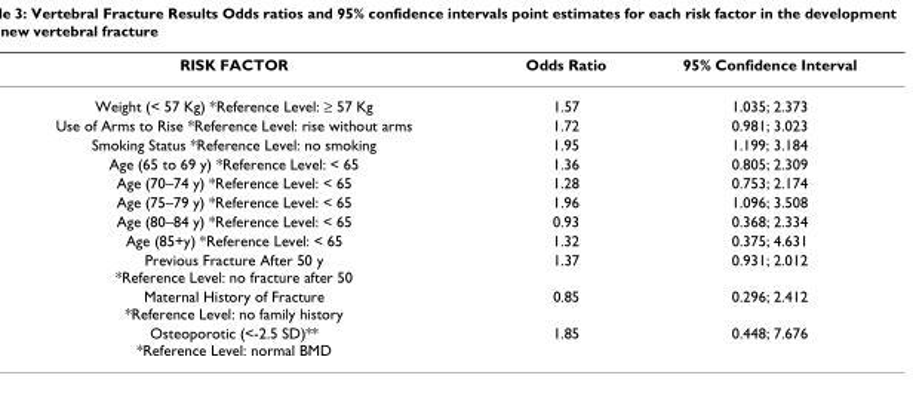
<table><thead><tr><td>RISK FACTOR</td><td>Odds Ratio</td><td>95% Confidence Interval</td></tr></thead><tbody><tr><td>Weight (&lt; 57 Kg) *Reference Level: ≥ 57 Kg</td><td>1.57</td><td>1.035; 2.373</td></tr><tr><td>Use of Arms to Rise *Reference Level: rise without arms</td><td>1.72</td><td>0.981; 3.023</td></tr><tr><td>Smoking Status *Reference Level: no smoking</td><td>1.95</td><td>1.199; 3.184</td></tr><tr><td>Age (65 to 69 y) *Reference Level: &lt; 65</td><td>1.36</td><td>0.805; 2.309</td></tr><tr><td>Age (70–74 y) *Reference Level: &lt; 65</td><td>1.28</td><td>0.753; 2.174</td></tr><tr><td>Age (75–79 y) *Reference Level: &lt; 65</td><td>1.96</td><td>1.096; 3.508</td></tr><tr><td>Age (80–84 y) *Reference Level: &lt; 65</td><td>0.93</td><td>0.368; 2.334</td></tr><tr><td>Age (85+y) *Reference Level: &lt; 65</td><td>1.32</td><td>0.375; 4.631</td></tr><tr><td>Previous Fracture After 50 y *Reference Level: no fracture after 50</td><td>1.37</td><td>0.931; 2.012</td></tr><tr><td>Maternal History of Fracture *Reference Level: no family history</td><td>0.85</td><td>0.296; 2.412</td></tr><tr><td>Osteoporotic (&lt;-2.5 SD)** *Reference Level: normal BMD</td><td>1.85</td><td>0.448; 7.676</td></tr></tbody></table>